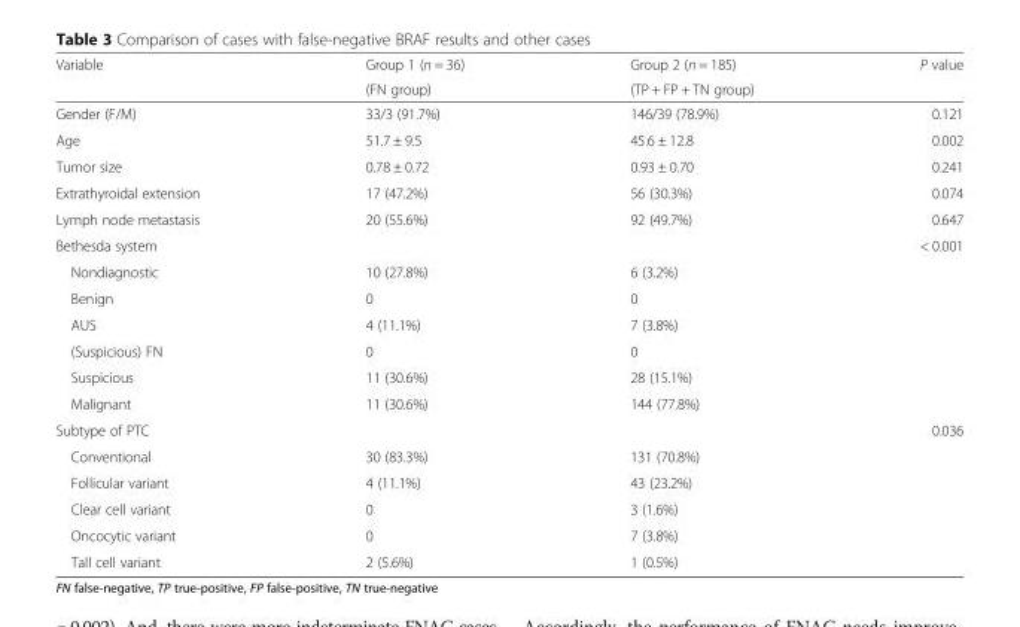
<table><thead><tr><td rowspan="2">Variable</td><td rowspan="2">Group 1 (n = 36) (FN group)</td><td rowspan="2">Group 2 (n = 185) (TP + FP + TN group)</td><td rowspan="2">P value</td></tr><tr></tr></thead><tbody><tr><td>Gender (F/M)</td><td>33/3 (91.7%)</td><td>146/39 (78.9%)</td><td>0.121</td></tr><tr><td>Age</td><td>51.7 ± 9.5</td><td>45.6 ± 12.8</td><td>0.002</td></tr><tr><td>Tumor size</td><td>0.78 ± 0.72</td><td>0.93 ± 0.70</td><td>0.241</td></tr><tr><td>Extrathyroidal extension</td><td>17 (47.2%)</td><td>56 (30.3%)</td><td>0.074</td></tr><tr><td>Lymph node metastasis</td><td>20 (55.6%)</td><td>92 (49.7%)</td><td>0.647</td></tr><tr><td>Bethesda system</td><td></td><td></td><td>&lt; 0.001</td></tr><tr><td>Nondiagnostic</td><td>10 (27.8%)</td><td>6 (3.2%)</td><td></td></tr><tr><td>Benign</td><td>0</td><td>0</td><td></td></tr><tr><td>AUS</td><td>4 (11.1%)</td><td>7 (3.8%)</td><td></td></tr><tr><td>(Suspicious) FN</td><td>0</td><td>0</td><td></td></tr><tr><td>Suspicious</td><td>11 (30.6%)</td><td>28 (15.1%)</td><td></td></tr><tr><td>Malignant</td><td>11 (30.6%)</td><td>144 (77.8%)</td><td></td></tr><tr><td>Subtype of PTC</td><td></td><td></td><td>0.036</td></tr><tr><td>Conventional</td><td>30 (83.3%)</td><td>131 (70.8%)</td><td></td></tr><tr><td>Follicular variant</td><td>4 (11.1%)</td><td>43 (23.2%)</td><td></td></tr><tr><td>Clear cell variant</td><td>0</td><td>3 (1.6%)</td><td></td></tr><tr><td>Oncocytic variant</td><td>0</td><td>7 (3.8%)</td><td></td></tr><tr><td>Tall cell variant</td><td>2 (5.6%)</td><td>1 (0.5%)</td><td></td></tr></tbody></table>